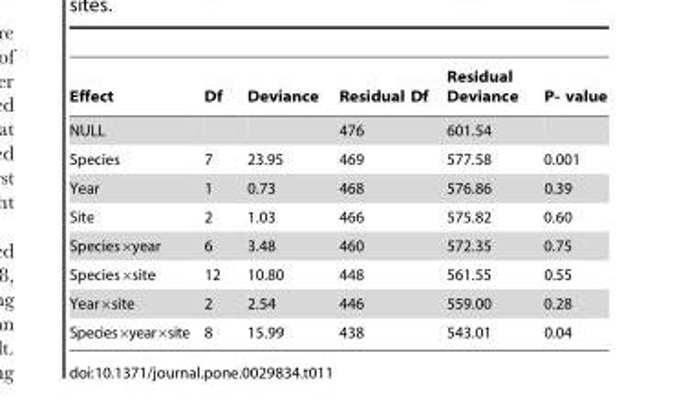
<table><thead><tr><td>Effect</td><td>Df</td><td>Deviance</td><td>Residual Df</td><td>Residual Deviance</td><td>P- value</td></tr></thead><tbody><tr><td>NULL</td><td></td><td></td><td>476</td><td>601.54</td><td></td></tr><tr><td>Species</td><td>7</td><td>23.95</td><td>469</td><td>577.58</td><td>0.001</td></tr><tr><td>Year</td><td>1</td><td>0.73</td><td>468</td><td>576.86</td><td>0.39</td></tr><tr><td>Site</td><td>2</td><td>1.03</td><td>466</td><td>575.82</td><td>0.60</td></tr><tr><td>Species×year</td><td>6</td><td>3.48</td><td>460</td><td>572.35</td><td>0.75</td></tr><tr><td>Species×site</td><td>12</td><td>10.80</td><td>448</td><td>561.55</td><td>0.55</td></tr><tr><td>Year×site</td><td>2</td><td>2.54</td><td>446</td><td>559.00</td><td>0.28</td></tr><tr><td>Species×year×site</td><td>8</td><td>15.99</td><td>438</td><td>543.01</td><td>0.04</td></tr></tbody></table>